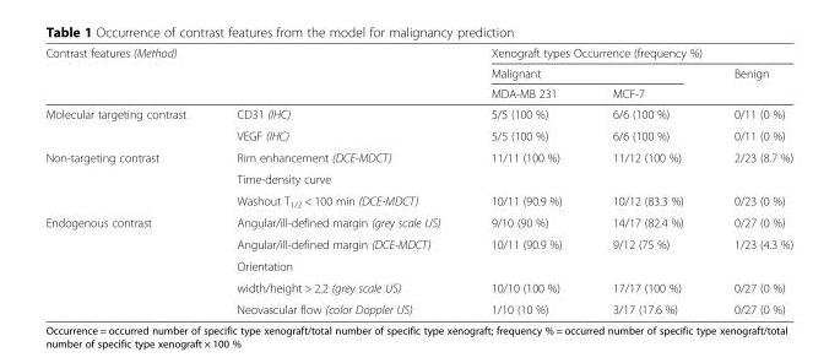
<table><thead><tr><td rowspan="3">Contrast features (Method)</td><td rowspan="3"></td><td colspan="3">Xenograft types Occurrence (frequency %)</td></tr><tr><td colspan="2">Malignant</td><td rowspan="2">Benign</td></tr><tr><td>MDA-MB 231</td><td>MCF-7</td></tr></thead><tbody><tr><td rowspan="2">Molecular targeting contrast</td><td>CD31 (IHC)</td><td>5/5 (100 %)</td><td>6/6 (100 %)</td><td>0/11 (0 %)</td></tr><tr><td>VEGF (IHC)</td><td>5/5 (100 %)</td><td>6/6 (100 %)</td><td>0/11 (0 %)</td></tr><tr><td rowspan="3">Non-targeting contrast</td><td>Rim enhancement (DCE-MDCT)</td><td>11/11 (100 %)</td><td>11/12 (100 %)</td><td>2/23 (8.7 %)</td></tr><tr><td>Time-density curve</td><td></td><td></td><td></td></tr><tr><td>Washout T<sub>1/2</sub> &lt; 100 min (DCE-MDCT)</td><td>10/11 (90.9 %)</td><td>10/12 (83.3 %)</td><td>0/23 (0 %)</td></tr><tr><td rowspan="5">Endogenous contrast</td><td>Angular/ill-defined margin (grey scale US)</td><td>9/10 (90 %)</td><td>14/17 (82.4 %)</td><td>0/27 (0 %)</td></tr><tr><td>Angular/ill-defined margin (DCE-MDCT)</td><td>10/11 (90.9 %)</td><td>9/12 (75 %)</td><td>1/23 (4.3 %)</td></tr><tr><td>Orientation</td><td></td><td></td><td></td></tr><tr><td>width/height &gt; 2.2 (grey scale US)</td><td>10/10 (100 %)</td><td>17/17 (100 %)</td><td>0/27 (0 %)</td></tr><tr><td>Neovascular flow (color Doppler US)</td><td>1/10 (10 %)</td><td>3/17 (17.6 %)</td><td>0/27 (0 %)</td></tr></tbody></table>